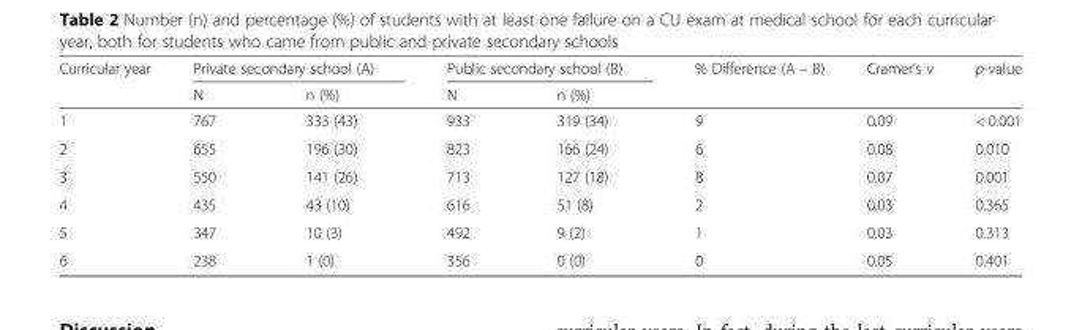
<table><thead><tr><td rowspan="2">Curricular year</td><td colspan="2">Private secondary school (A)</td><td colspan="2">Public secondary school (B)</td><td rowspan="2">% Difference (A – B)</td><td rowspan="2">Cramer’s v</td><td rowspan="2">p-value</td></tr><tr><td>N</td><td>n (%)</td><td>N</td><td>n (%)</td></tr></thead><tbody><tr><td>1</td><td>767</td><td>333 (43)</td><td>933</td><td>319 (34)</td><td>9</td><td>0.09</td><td>&lt; 0.001</td></tr><tr><td>2</td><td>655</td><td>196 (30)</td><td>823</td><td>166 (24)</td><td>6</td><td>0.08</td><td>0.010</td></tr><tr><td>3</td><td>550</td><td>141 (26)</td><td>713</td><td>127 (18)</td><td>8</td><td>0.07</td><td>0.001</td></tr><tr><td>4</td><td>435</td><td>43 (10)</td><td>616</td><td>51 (8)</td><td>2</td><td>0.03</td><td>0.365</td></tr><tr><td>5</td><td>347</td><td>10 (3)</td><td>492</td><td>9 (2)</td><td>1</td><td>0.03</td><td>0.313</td></tr><tr><td>6</td><td>238</td><td>1 (0)</td><td>356</td><td>0 (0)</td><td>0</td><td>0.05</td><td>0.401</td></tr></tbody></table>